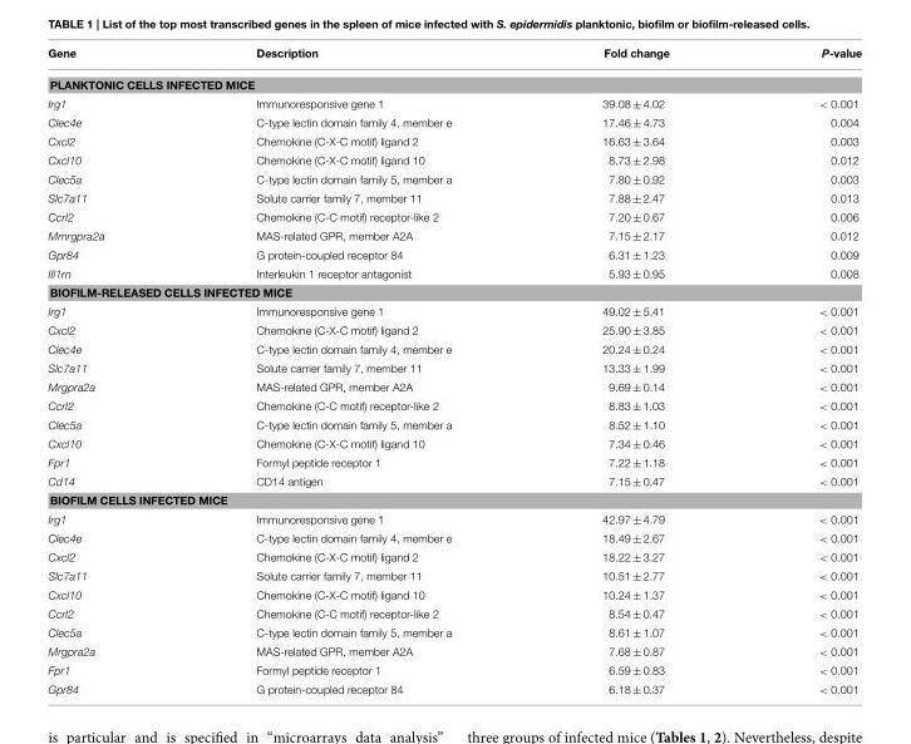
<table><thead><tr><td>Gene</td><td>Description</td><td>Fold change</td><td>P-value</td></tr></thead><tbody><tr><td colspan="4">PLANKTONIC CELLS INFECTED MICE</td></tr><tr><td>Irg1</td><td>Immunoresponsive gene 1</td><td>39.08 ± 4.02</td><td>&lt; 0.001</td></tr><tr><td>Clec4e</td><td>C-type lectin domain family 4, member e</td><td>17.46 ± 4.73</td><td>0.004</td></tr><tr><td>Cxcl2</td><td>Chemokine (C-X-C motif) ligand 2</td><td>16.63 ± 3.64</td><td>0.003</td></tr><tr><td>Cxcl10</td><td>Chemokine (C-X-C motif) ligand 10</td><td>8.73 ± 2.98</td><td>0.012</td></tr><tr><td>Clec5a</td><td>C-type lectin domain family 5, member a</td><td>7.80 ± 0.92</td><td>0.003</td></tr><tr><td>Slc7a11</td><td>Solute carrier family 7, member 11</td><td>7.88 ± 2.47</td><td>0.013</td></tr><tr><td>Ccrl2</td><td>Chemokine (C-C motif) receptor-like 2</td><td>7.20 ± 0.67</td><td>0.006</td></tr><tr><td>Mmrgpra2a</td><td>MAS-related GPR, member A2A</td><td>7.15 ± 2.17</td><td>0.012</td></tr><tr><td>Gpr84</td><td>G protein-coupled receptor 84</td><td>6.31 ± 1.23</td><td>0.009</td></tr><tr><td>IIl1rn</td><td>Interleukin 1 receptor antagonist</td><td>5.93 ± 0.95</td><td>0.008</td></tr><tr><td colspan="4">BIOFILM-RELEASED CELLS INFECTED MICE</td></tr><tr><td>Irg1</td><td>Immunoresponsive gene 1</td><td>49.02 ± 5.41</td><td>&lt; 0.001</td></tr><tr><td>Cxcl2</td><td>Chemokine (C-X-C motif) ligand 2</td><td>25.90 ± 3.85</td><td>&lt; 0.001</td></tr><tr><td>Clec4e</td><td>C-type lectin domain family 4, member e</td><td>20.24 ± 0.24</td><td>&lt; 0.001</td></tr><tr><td>Slc7a11</td><td>Solute carrier family 7, member 11</td><td>13.33 ± 1.99</td><td>&lt; 0.001</td></tr><tr><td>Mrgpra2a</td><td>MAS-related GPR, member A2A</td><td>9.69 ± 0.14</td><td>&lt; 0.001</td></tr><tr><td>Ccrl2</td><td>Chemokine (C-C motif) receptor-like 2</td><td>8.83 ± 1.03</td><td>&lt; 0.001</td></tr><tr><td>Clec5a</td><td>C-type lectin domain family 5, member a</td><td>8.52 ± 1.10</td><td>&lt; 0.001</td></tr><tr><td>Cxcl10</td><td>Chemokine (C-X-C motif) ligand 10</td><td>7.34 ± 0.46</td><td>&lt; 0.001</td></tr><tr><td>Fpr1</td><td>Formyl peptide receptor 1</td><td>7.22 ± 1.18</td><td>&lt; 0.001</td></tr><tr><td>Cd14</td><td>CD14 antigen</td><td>7.15 ± 0.47</td><td>&lt; 0.001</td></tr><tr><td colspan="4">BIOFILM CELLS INFECTED MICE</td></tr><tr><td>Irg1</td><td>Immunoresponsive gene 1</td><td>42.97 ± 4.79</td><td>&lt; 0.001</td></tr><tr><td>Clec4e</td><td>C-type lectin domain family 4, member e</td><td>18.49 ± 2.67</td><td>&lt; 0.001</td></tr><tr><td>Cxcl2</td><td>Chemokine (C-X-C motif) ligand 2</td><td>18.22 ± 3.27</td><td>&lt; 0.001</td></tr><tr><td>Slc7a11</td><td>Solute carrier family 7, member 11</td><td>10.51 ± 2.77</td><td>&lt; 0.001</td></tr><tr><td>Cxcl10</td><td>Chemokine (C-X-C motif) ligand 10</td><td>10.24 ± 1.37</td><td>&lt; 0.001</td></tr><tr><td>Ccrl2</td><td>Chemokine (C-C motif) receptor-like 2</td><td>8.54 ± 0.47</td><td>&lt; 0.001</td></tr><tr><td>Clec5a</td><td>C-type lectin domain family 5, member a</td><td>8.61 ± 1.07</td><td>&lt; 0.001</td></tr><tr><td>Mrgpra2a</td><td>MAS-related GPR, member A2A</td><td>7.68 ± 0.87</td><td>&lt; 0.001</td></tr><tr><td>Fpr1</td><td>Formyl peptide receptor 1</td><td>6.59 ± 0.83</td><td>&lt; 0.001</td></tr><tr><td>Gpr84</td><td>G protein-coupled receptor 84</td><td>6.18 ± 0.37</td><td>&lt; 0.001</td></tr></tbody></table>